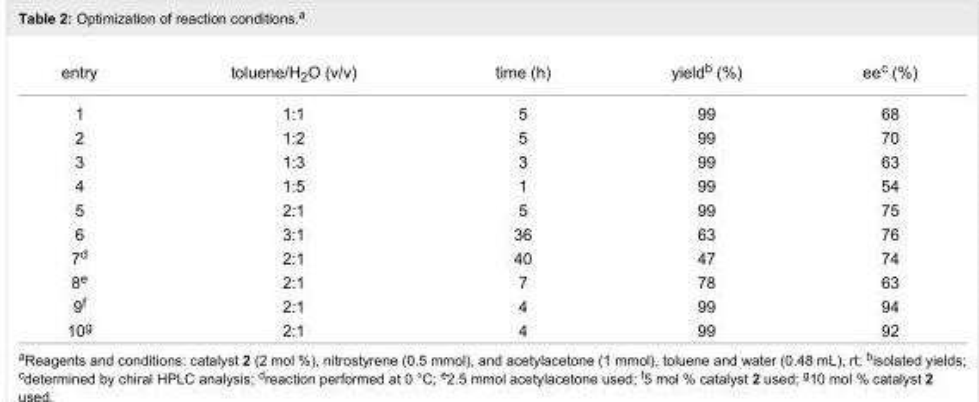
<table><tbody><tr><td>entry</td><td>toluene/H<sub>2</sub>O (v/v)</td><td>time (h)</td><td>yield<sup>b</sup> (%)</td><td>ee<sup>c</sup> (%)</td></tr><tr><td>1</td><td>1:1</td><td>5</td><td>99</td><td>68</td></tr><tr><td>2</td><td>1:2</td><td>5</td><td>99</td><td>70</td></tr><tr><td>3</td><td>1:3</td><td>3</td><td>99</td><td>63</td></tr><tr><td>4</td><td>1:5</td><td>1</td><td>99</td><td>54</td></tr><tr><td>5</td><td>2:1</td><td>5</td><td>99</td><td>75</td></tr><tr><td>6</td><td>3:1</td><td>36</td><td>63</td><td>76</td></tr><tr><td>7<sup>d</sup></td><td>2:1</td><td>40</td><td>47</td><td>74</td></tr><tr><td>8<sup>e</sup></td><td>2:1</td><td>7</td><td>78</td><td>63</td></tr><tr><td>9<sup>f</sup></td><td>2:1</td><td>4</td><td>99</td><td>94</td></tr><tr><td>10<sup>g</sup></td><td>2:1</td><td>4</td><td>99</td><td>92</td></tr></tbody></table>